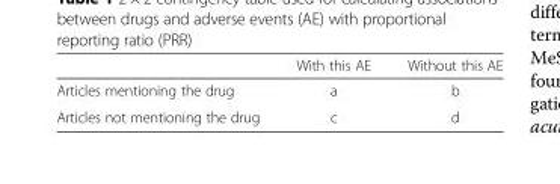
<table><thead><tr><td></td><td>With this AE</td><td>Without this AE</td></tr></thead><tbody><tr><td>Articles mentioning the drug</td><td>a</td><td>b</td></tr><tr><td>Articles not mentioning the drug</td><td>c</td><td>d</td></tr></tbody></table>